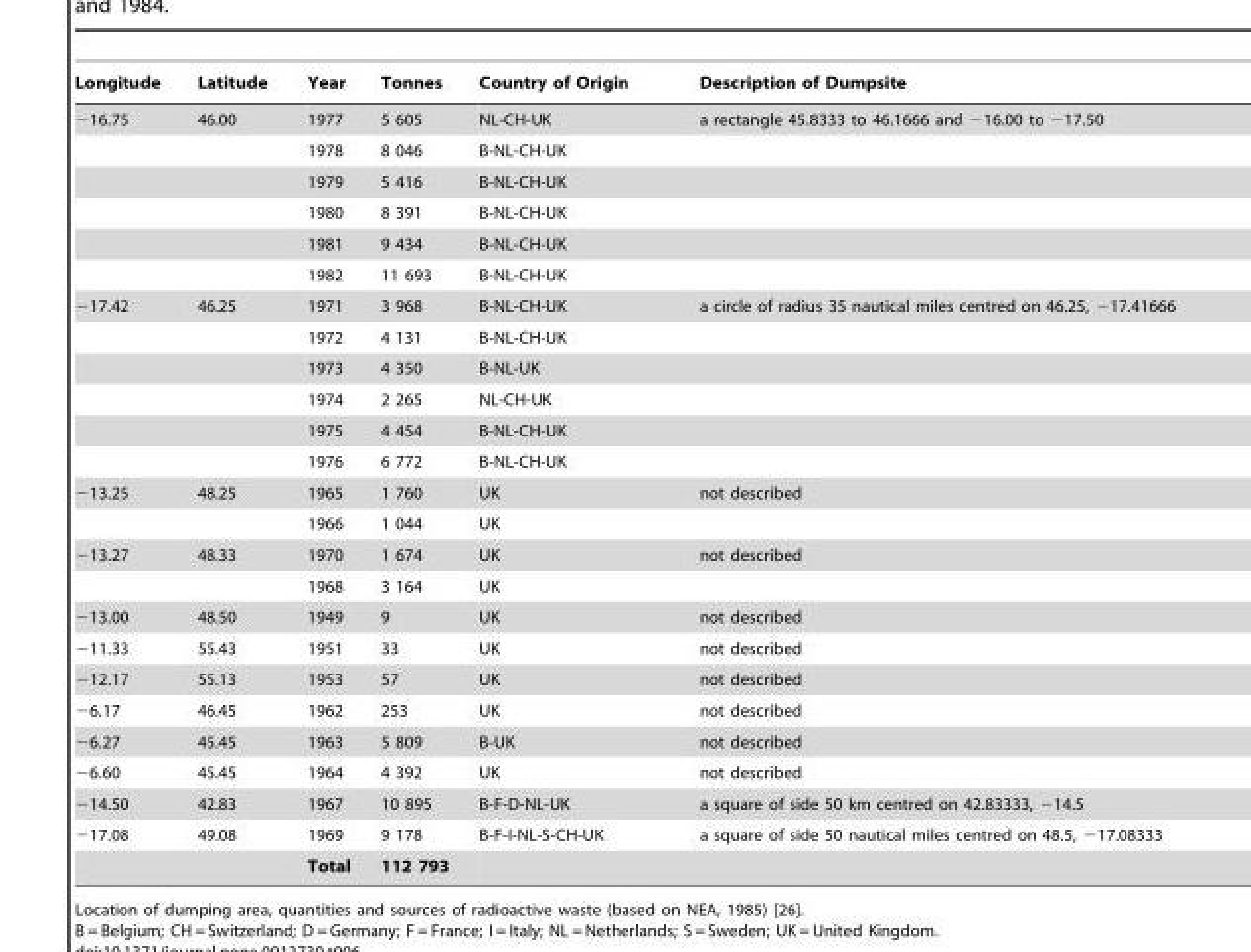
<table><thead><tr><td>Longitude</td><td>Latitude</td><td>Year</td><td>Tonnes</td><td>Country of Origin</td><td>Description of Dumpsite</td></tr></thead><tbody><tr><td rowspan="6">−16.75</td><td>46.00</td><td>1977</td><td>5 605</td><td>NL-CH-UK</td><td>a rectangle 45.8333 to 46.1666 and −16.00 to −17.50</td></tr><tr><td></td><td>1978</td><td>8 046</td><td>B-NL-CH-UK</td><td></td></tr><tr><td></td><td>1979</td><td>5 416</td><td>B-NL-CH-UK</td><td></td></tr><tr><td></td><td>1980</td><td>8 391</td><td>B-NL-CH-UK</td><td></td></tr><tr><td></td><td>1981</td><td>9 434</td><td>B-NL-CH-UK</td><td></td></tr><tr><td></td><td>1982</td><td>11 693</td><td>B-NL-CH-UK</td><td></td></tr><tr><td rowspan="6">−17.42</td><td>46.25</td><td>1971</td><td>3 968</td><td>B-NL-CH-UK</td><td>a circle of radius 35 nautical miles centred on 46.25, −17.41666</td></tr><tr><td></td><td>1972</td><td>4 131</td><td>B-NL-CH-UK</td><td></td></tr><tr><td></td><td>1973</td><td>4 350</td><td>B-NL-UK</td><td></td></tr><tr><td></td><td>1974</td><td>2 265</td><td>NL-CH-UK</td><td></td></tr><tr><td></td><td>1975</td><td>4 454</td><td>B-NL-CH-UK</td><td></td></tr><tr><td></td><td>1976</td><td>6 772</td><td>B-NL-CH-UK</td><td></td></tr><tr><td rowspan="2">−13.25</td><td>48.25</td><td>1965</td><td>1 760</td><td>UK</td><td>not described</td></tr><tr><td></td><td>1966</td><td>1 044</td><td>UK</td><td></td></tr><tr><td rowspan="2">−13.27</td><td>48.33</td><td>1970</td><td>1 674</td><td>UK</td><td>not described</td></tr><tr><td></td><td>1968</td><td>3 164</td><td>UK</td><td></td></tr><tr><td>−13.00</td><td>48.50</td><td>1949</td><td>9</td><td>UK</td><td>not described</td></tr><tr><td>−11.33</td><td>55.43</td><td>1951</td><td>33</td><td>UK</td><td>not described</td></tr><tr><td>−12.17</td><td>55.13</td><td>1953</td><td>57</td><td>UK</td><td>not described</td></tr><tr><td>−6.17</td><td>46.45</td><td>1962</td><td>253</td><td>UK</td><td>not described</td></tr><tr><td>−6.27</td><td>45.45</td><td>1963</td><td>5 809</td><td>B-UK</td><td>not described</td></tr><tr><td>−6.60</td><td>45.45</td><td>1964</td><td>4 392</td><td>UK</td><td>not described</td></tr><tr><td>−14.50</td><td>42.83</td><td>1967</td><td>10 895</td><td>B-F-D-NL-UK</td><td>a square of side 50 km centred on 42.83333, −14.5</td></tr><tr><td rowspan="2">−17.08</td><td>49.08</td><td>1969</td><td>9 178</td><td>B-F-I-NL-S-CH-UK</td><td>a square of side 50 nautical miles centred on 48.5, −17.08333</td></tr><tr><td></td><td>Total</td><td>112 793</td><td></td><td></td></tr></tbody></table>